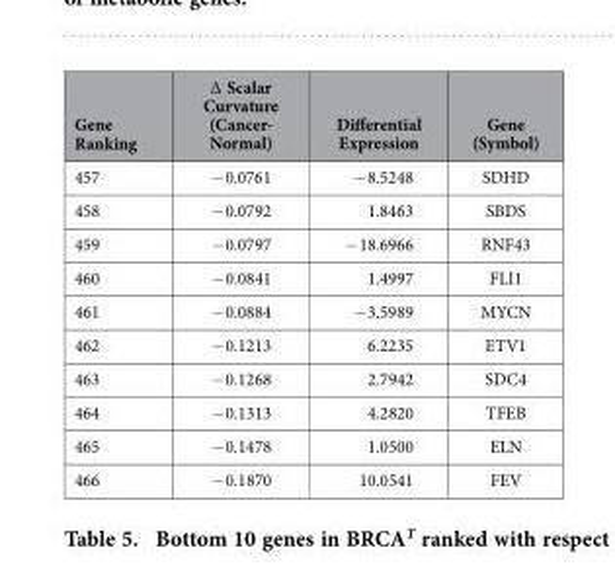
<table><thead><tr><td>Gene Ranking</td><td>∆ Scalar Curvature (Cancer- Normal)</td><td>Differential Expression</td><td>Gene (Symbol)</td></tr></thead><tbody><tr><td>457</td><td>− 0.0761</td><td>− 8.5248</td><td>SDHD</td></tr><tr><td>458</td><td>− 0.0792</td><td>1.8463</td><td>SBDS</td></tr><tr><td>459</td><td>− 0.0797</td><td>− 18.6966</td><td>RNF43</td></tr><tr><td>460</td><td>− 0.0841</td><td>1.4997</td><td>FLI1</td></tr><tr><td>461</td><td>− 0.0884</td><td>− 3.5989</td><td>MYCN</td></tr><tr><td>462</td><td>− 0.1213</td><td>6.2235</td><td>ETV1</td></tr><tr><td>463</td><td>− 0.1268</td><td>2.7942</td><td>SDC4</td></tr><tr><td>464</td><td>− 0.1313</td><td>4.2820</td><td>TFEB</td></tr><tr><td>465</td><td>− 0.1478</td><td>1.0500</td><td>ELN</td></tr><tr><td>466</td><td>− 0.1870</td><td>10.0541</td><td>FEV</td></tr></tbody></table>